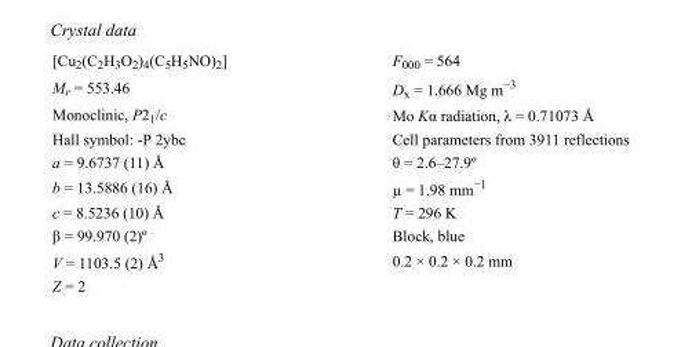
<table><tbody><tr><td>[Cu<sub>2</sub>(C<sub>2</sub>H<sub>3</sub>O<sub>2</sub>)<sub>4</sub>(C<sub>5</sub>H<sub>5</sub>NO)<sub>2</sub>]</td><td>F000 = 564</td></tr><tr><td>M<sub>r</sub> = 553.46</td><td>D<sub>x</sub> = 1.666 Mg m<sup>−3</sup></td></tr><tr><td>Monoclinic, P2<sub>1</sub>/c</td><td>Mo Kα radiation, λ = 0.71073 Å</td></tr><tr><td>Hall symbol: -P 2ybc</td><td>Cell parameters from 3911 reflections</td></tr><tr><td>a = 9.6737 (11) Å</td><td>θ = 2.6–27.9º</td></tr><tr><td>b = 13.5886 (16) Å</td><td>µ = 1.98 mm<sup>−1</sup></td></tr><tr><td>c = 8.5236 (10) Å</td><td>T = 296 K</td></tr><tr><td>β = 99.970 (2)º</td><td>Block, blue</td></tr><tr><td>V = 1103.5 (2) Å<sup>3</sup></td><td>0.2 × 0.2 × 0.2 mm</td></tr><tr><td>Z = 2</td><td></td></tr></tbody></table>